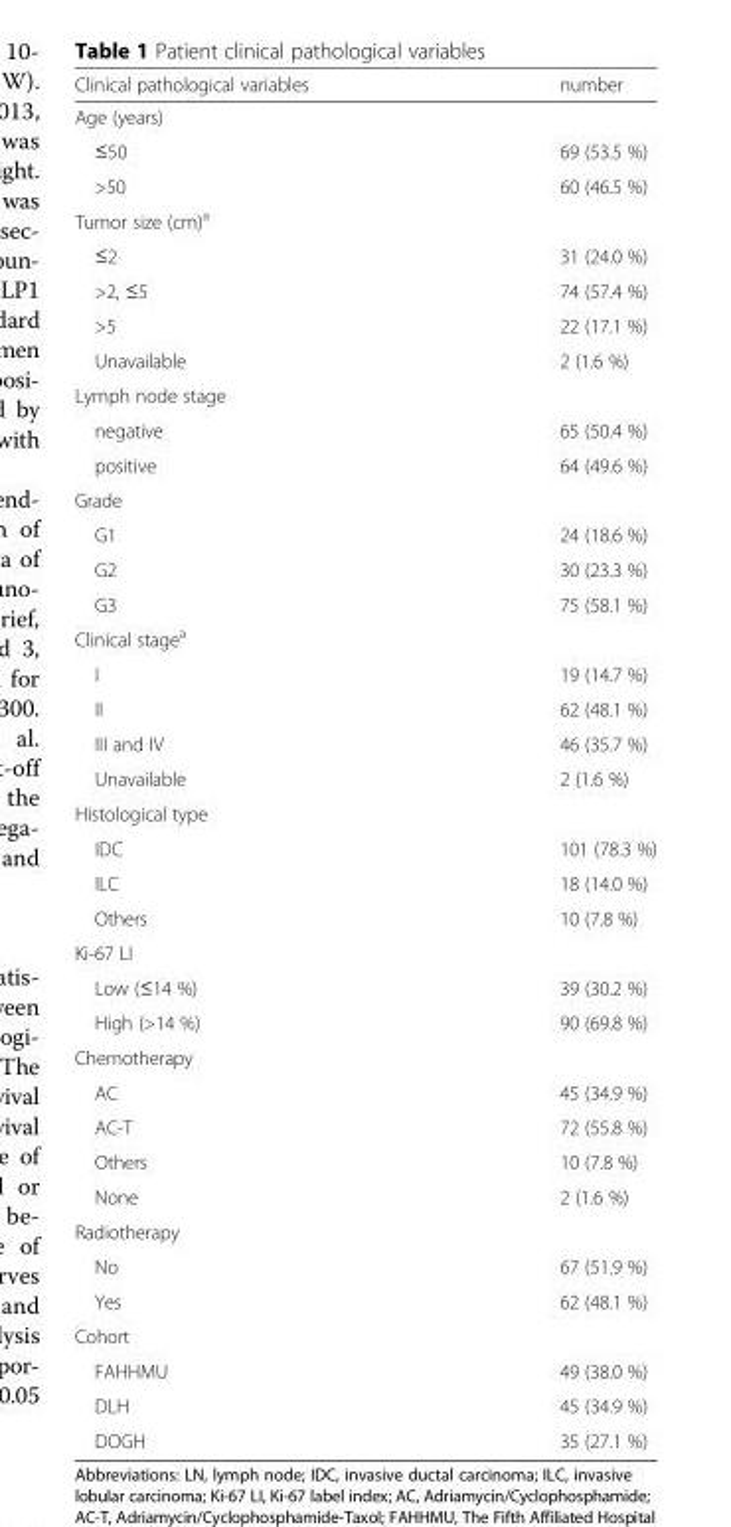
<table><thead><tr><td>Clinical pathological variables</td><td>number</td></tr></thead><tbody><tr><td colspan="2">Age (years)</td></tr><tr><td>≤50</td><td>69 (53.5 %)</td></tr><tr><td>&gt;50</td><td>60 (46.5 %)</td></tr><tr><td colspan="2">Tumor size (cm)<sup>a</sup></td></tr><tr><td>≤2</td><td>31 (24.0 %)</td></tr><tr><td>&gt;2, ≤5</td><td>74 (57.4 %)</td></tr><tr><td>&gt;5</td><td>22 (17.1 %)</td></tr><tr><td>Unavailable</td><td>2 (1.6 %)</td></tr><tr><td colspan="2">Lymph node stage</td></tr><tr><td>negative</td><td>65 (50.4 %)</td></tr><tr><td>positive</td><td>64 (49.6 %)</td></tr><tr><td colspan="2">Grade</td></tr><tr><td>G1</td><td>24 (18.6 %)</td></tr><tr><td>G2</td><td>30 (23.3 %)</td></tr><tr><td>G3</td><td>75 (58.1 %)</td></tr><tr><td colspan="2">Clinical stage<sup>a</sup></td></tr><tr><td>I</td><td>19 (14.7 %)</td></tr><tr><td>II</td><td>62 (48.1 %)</td></tr><tr><td>III and IV</td><td>46 (35.7 %)</td></tr><tr><td>Unavailable</td><td>2 (1.6 %)</td></tr><tr><td colspan="2">Histological type</td></tr><tr><td>IDC</td><td>101 (78.3 %)</td></tr><tr><td>ILC</td><td>18 (14.0 %)</td></tr><tr><td>Others</td><td>10 (7.8 %)</td></tr><tr><td colspan="2">Ki-67 LI</td></tr><tr><td>Low (≤14 %)</td><td>39 (30.2 %)</td></tr><tr><td>High (&gt;14 %)</td><td>90 (69.8 %)</td></tr><tr><td colspan="2">Chemotherapy</td></tr><tr><td>AC</td><td>45 (34.9 %)</td></tr><tr><td>AC-T</td><td>72 (55.8 %)</td></tr><tr><td>Others</td><td>10 (7.8 %)</td></tr><tr><td>None</td><td>2 (1.6 %)</td></tr><tr><td colspan="2">Radiotherapy</td></tr><tr><td>No</td><td>67 (51.9 %)</td></tr><tr><td>Yes</td><td>62 (48.1 %)</td></tr><tr><td colspan="2">Cohort</td></tr><tr><td>FAHHMU</td><td>49 (38.0 %)</td></tr><tr><td>DLH</td><td>45 (34.9 %)</td></tr><tr><td>DOGH</td><td>35 (27.1 %)</td></tr></tbody></table>